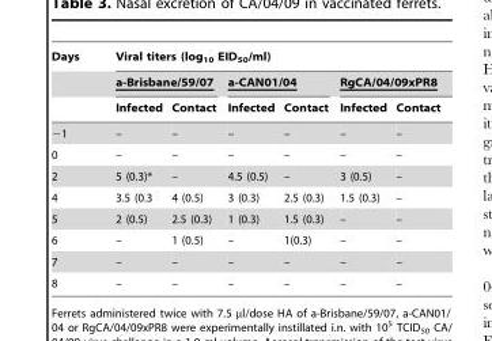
<table><thead><tr><td rowspan="3">Days</td><td colspan="6">Viral titers (log<sub>10</sub> EID<sub>50</sub>/ml)</td></tr><tr><td colspan="2">a-Brisbane/59/07</td><td colspan="2">a-CAN01/04</td><td colspan="2">RgCA/04/09xPR8</td></tr><tr><td>Infected</td><td>Contact</td><td>Infected</td><td>Contact</td><td>Infected</td><td>Contact</td></tr></thead><tbody><tr><td>−1</td><td>–</td><td>–</td><td>–</td><td>–</td><td>–</td><td>–</td></tr><tr><td>0</td><td>–</td><td>–</td><td>–</td><td>–</td><td>–</td><td>–</td></tr><tr><td>2</td><td>5 (0.3)*</td><td>–</td><td>4.5 (0.5)</td><td>–</td><td>3 (0.5)</td><td>–</td></tr><tr><td>4</td><td>3.5 (0.3</td><td>4 (0.5)</td><td>3 (0.3)</td><td>2.5 (0.3)</td><td>1.5 (0.3)</td><td>–</td></tr><tr><td>5</td><td>2 (0.5)</td><td>2.5 (0.3)</td><td>1 (0.3)</td><td>1.5 (0.3)</td><td>–</td><td>–</td></tr><tr><td>6</td><td>–</td><td>1 (0.5)</td><td>–</td><td>1(0.3)</td><td>–</td><td>–</td></tr><tr><td>7</td><td>–</td><td>–</td><td>–</td><td>–</td><td>–</td><td>–</td></tr><tr><td>8</td><td>–</td><td>–</td><td>–</td><td>–</td><td>–</td><td>–</td></tr></tbody></table>